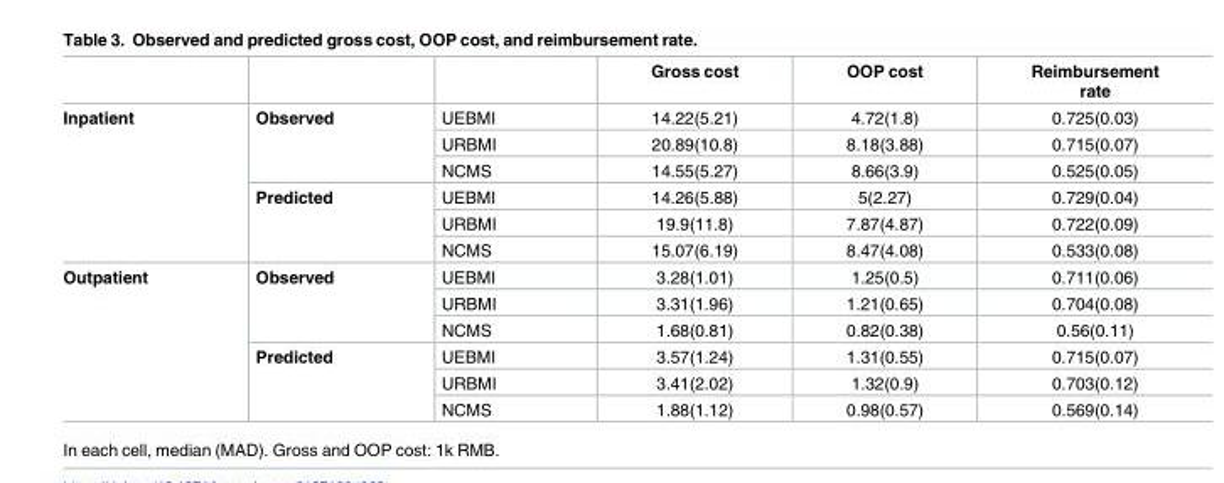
<table><thead><tr><td></td><td></td><td></td><td>Gross cost</td><td>OOP cost</td><td>Reimbursement rate</td></tr></thead><tbody><tr><td rowspan="6">Inpatient</td><td rowspan="3">Observed</td><td>UEBMI</td><td>14.22(5.21)</td><td>4.72(1.8)</td><td>0.725(0.03)</td></tr><tr><td>URBMI</td><td>20.89(10.8)</td><td>8.18(3.88)</td><td>0.715(0.07)</td></tr><tr><td>NCMS</td><td>14.55(5.27)</td><td>8.66(3.9)</td><td>0.525(0.05)</td></tr><tr><td rowspan="3">Predicted</td><td>UEBMI</td><td>14.26(5.88)</td><td>5(2.27)</td><td>0.729(0.04)</td></tr><tr><td>URBMI</td><td>19.9(11.8)</td><td>7.87(4.87)</td><td>0.722(0.09)</td></tr><tr><td>NCMS</td><td>15.07(6.19)</td><td>8.47(4.08)</td><td>0.533(0.08)</td></tr><tr><td rowspan="6">Outpatient</td><td rowspan="3">Observed</td><td>UEBMI</td><td>3.28(1.01)</td><td>1.25(0.5)</td><td>0.711(0.06)</td></tr><tr><td>URBMI</td><td>3.31(1.96)</td><td>1.21(0.65)</td><td>0.704(0.08)</td></tr><tr><td>NCMS</td><td>1.68(0.81)</td><td>0.82(0.38)</td><td>0.56(0.11)</td></tr><tr><td rowspan="3">Predicted</td><td>UEBMI</td><td>3.57(1.24)</td><td>1.31(0.55)</td><td>0.715(0.07)</td></tr><tr><td>URBMI</td><td>3.41(2.02)</td><td>1.32(0.9)</td><td>0.703(0.12)</td></tr><tr><td>NCMS</td><td>1.88(1.12)</td><td>0.98(0.57)</td><td>0.569(0.14)</td></tr></tbody></table>